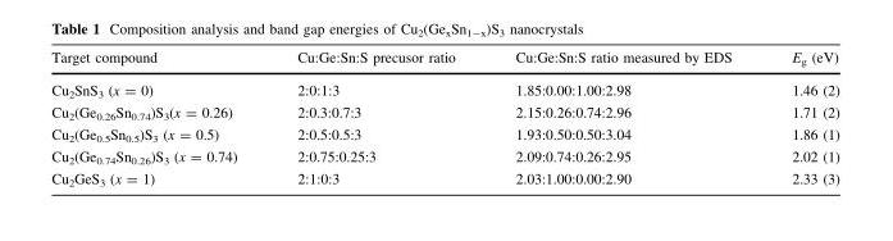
<table><thead><tr><td>Target compound</td><td>Cu:Ge:Sn:S precusor ratio</td><td>Cu:Ge:Sn:S ratio measured by EDS</td><td>E<sub>g</sub> (eV)</td></tr></thead><tbody><tr><td>Cu<sub>2</sub>SnS<sub>3</sub> (x = 0)</td><td>2:0:1:3</td><td>1.85:0.00:1.00:2.98</td><td>1.46 (2)</td></tr><tr><td>Cu<sub>2</sub>(Ge<sub>0.26</sub>Sn<sub>0.74</sub>)S<sub>3</sub>(x = 0.26)</td><td>2:0.3:0.7:3</td><td>2.15:0.26:0.74:2.96</td><td>1.71 (2)</td></tr><tr><td>Cu<sub>2</sub>(Ge<sub>0.5</sub>Sn<sub>0.5</sub>)S<sub>3</sub> (x = 0.5)</td><td>2:0.5:0.5:3</td><td>1.93:0.50:0.50:3.04</td><td>1.86 (1)</td></tr><tr><td>Cu<sub>2</sub>(Ge<sub>0.74</sub>Sn<sub>0.26</sub>)S<sub>3</sub> (x = 0.74)</td><td>2:0.75:0.25:3</td><td>2.09:0.74:0.26:2.95</td><td>2.02 (1)</td></tr><tr><td>Cu<sub>2</sub>GeS<sub>3</sub> (x = 1)</td><td>2:1:0:3</td><td>2.03:1.00:0.00:2.90</td><td>2.33 (3)</td></tr></tbody></table>